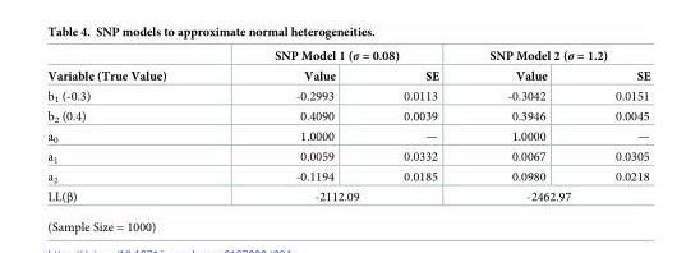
<table><thead><tr><td rowspan="2">Variable (True Value)</td><td colspan="2">SNP Model 1 (σ = 0.08)</td><td colspan="2">SNP Model 2 (σ = 1.2)</td></tr><tr><td>Value</td><td>SE</td><td>Value</td><td>SE</td></tr></thead><tbody><tr><td>b<sub>1</sub> (-0.3)</td><td>-0.2993</td><td>0.0113</td><td>-0.3042</td><td>0.0151</td></tr><tr><td>b<sub>2</sub> (0.4)</td><td>0.4090</td><td>0.0039</td><td>0.3946</td><td>0.0045</td></tr><tr><td>a<sub>0</sub></td><td>1.0000</td><td>—</td><td>1.0000</td><td>—</td></tr><tr><td>a<sub>1</sub></td><td>0.0059</td><td>0.0332</td><td>0.0067</td><td>0.0305</td></tr><tr><td>a<sub>2</sub></td><td>-0.1194</td><td>0.0185</td><td>0.0980</td><td>0.0218</td></tr><tr><td>LL(β)</td><td colspan="2">-2112.09</td><td colspan="2">-2462.97</td></tr></tbody></table>